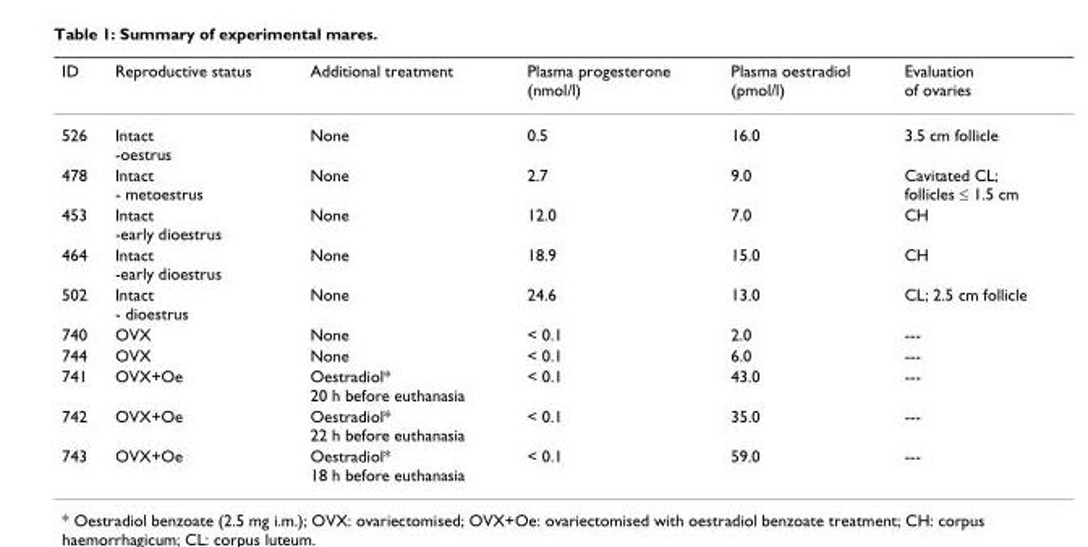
<table><thead><tr><td>ID</td><td>Reproductive status</td><td>Additional treatment</td><td>Plasma progesterone (nmol/l)</td><td>Plasma oestradiol (pmol/l)</td><td>Evaluation of ovaries</td></tr></thead><tbody><tr><td>526</td><td>Intact -oestrus</td><td>None</td><td>0.5</td><td>16.0</td><td>3.5 cm follicle</td></tr><tr><td>478</td><td>Intact - metoestrus</td><td>None</td><td>2.7</td><td>9.0</td><td>Cavitated CL; follicles ≤ 1.5 cm</td></tr><tr><td>453</td><td>Intact -early dioestrus</td><td>None</td><td>12.0</td><td>7.0</td><td>CH</td></tr><tr><td>464</td><td>Intact -early dioestrus</td><td>None</td><td>18.9</td><td>15.0</td><td>CH</td></tr><tr><td>502</td><td>Intact - dioestrus</td><td>None</td><td>24.6</td><td>13.0</td><td>CL; 2.5 cm follicle</td></tr><tr><td>740</td><td>OVX</td><td>None</td><td>&lt; 0.1</td><td>2.0</td><td>---</td></tr><tr><td>744</td><td>OVX</td><td>None</td><td>&lt; 0.1</td><td>6.0</td><td>---</td></tr><tr><td>741</td><td>OVX+Oe</td><td>Oestradiol* 20 h before euthanasia</td><td>&lt; 0.1</td><td>43.0</td><td>---</td></tr><tr><td>742</td><td>OVX+Oe</td><td>Oestradiol* 22 h before euthanasia</td><td>&lt; 0.1</td><td>35.0</td><td>---</td></tr><tr><td>743</td><td>OVX+Oe</td><td>Oestradiol* 18 h before euthanasia</td><td>&lt; 0.1</td><td>59.0</td><td>---</td></tr></tbody></table>